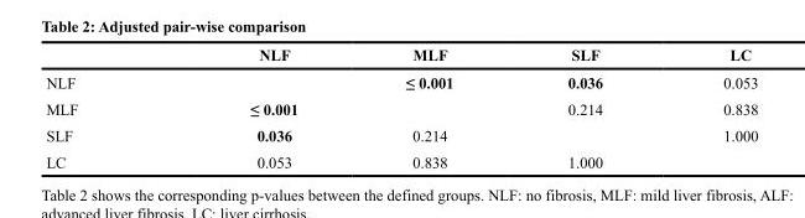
<table><thead><tr><td></td><td>NLF</td><td>MLF</td><td>SLF</td><td>LC</td></tr></thead><tbody><tr><td>NLF</td><td></td><td>≤ 0.001</td><td>0.036</td><td>0.053</td></tr><tr><td>MLF</td><td>≤ 0.001</td><td></td><td>0.214</td><td>0.838</td></tr><tr><td>SLF</td><td>0.036</td><td>0.214</td><td></td><td>1.000</td></tr><tr><td>LC</td><td>0.053</td><td>0.838</td><td>1.000</td><td></td></tr></tbody></table>